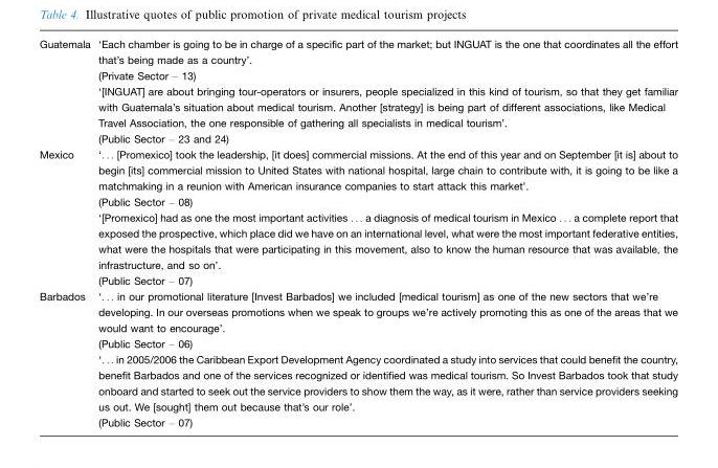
<table><tbody><tr><td>Guatemala</td><td>‘Each chamber is going to be in charge of a specific part of the market; but INGUAT is the one that coordinates all the effort that’s being made as a country’. (Private Sector – 13) ‘[INGUAT] are about bringing tour-operators or insurers, people specialized in this kind of tourism, so that they get familiar with Guatemala’s situation about medical tourism. Another [strategy] is being part of different associations, like Medical Travel Association, the one responsible of gathering all specialists in medical tourism’. (Public Sector – 23 and 24)</td></tr><tr><td>Mexico</td><td>‘. . . [Promexico] took the leadership, [it does] commercial missions. At the end of this year and on September [it is] about to begin [its] commercial mission to United States with national hospital, large chain to contribute with, it is going to be like a matchmaking in a reunion with American insurance companies to start attack this market’. (Public Sector � 08) ‘[Promexico] had as one the most important activities . . . a diagnosis of medical tourism in Mexico . . . a complete report that exposed the prospective, which place did we have on an international level, what were the most important federative entities, what were the hospitals that were participating in this movement, also to know the human resource that was available, the infrastructure, and so on’. (Public Sector � 07)</td></tr><tr><td>Barbados</td><td>‘. . . in our promotional literature [Invest Barbados] we included [medical tourism] as one of the new sectors that we’re developing. In our overseas promotions when we speak to groups we’re actively promoting this as one of the areas that we would want to encourage’. (Public Sector � 06) ‘. . . in 2005/2006 the Caribbean Export Development Agency coordinated a study into services that could benefit the country, benefit Barbados and one of the services recognized or identified was medical tourism. So Invest Barbados took that study onboard and started to seek out the service providers to show them the way, as it were, rather than service providers seeking us out. We [sought] them out because that’s our role’. (Public Sector � 07)</td></tr></tbody></table>